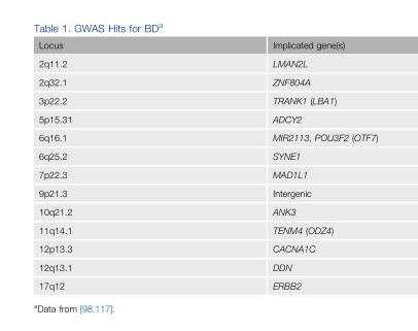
<table><thead><tr><td>Locus</td><td>Implicated gene(s)</td></tr></thead><tbody><tr><td>2q11.2</td><td>LMAN2L</td></tr><tr><td>2q32.1</td><td>ZNF804A</td></tr><tr><td>3p22.2</td><td>TRANK1 (LBA1)</td></tr><tr><td>5p15.31</td><td>ADCY2</td></tr><tr><td>6q16.1</td><td>MIR2113, POU3F2 (OTF7)</td></tr><tr><td>6q25.2</td><td>SYNE1</td></tr><tr><td>7p22.3</td><td>MAD1L1</td></tr><tr><td>9p21.3</td><td>Intergenic</td></tr><tr><td>10q21.2</td><td>ANK3</td></tr><tr><td>11q14.1</td><td>TENM4 (ODZ4)</td></tr><tr><td>12p13.3</td><td>CACNA1C</td></tr><tr><td>12q13.1</td><td>DDN</td></tr><tr><td>17q12</td><td>ERBB2</td></tr></tbody></table>